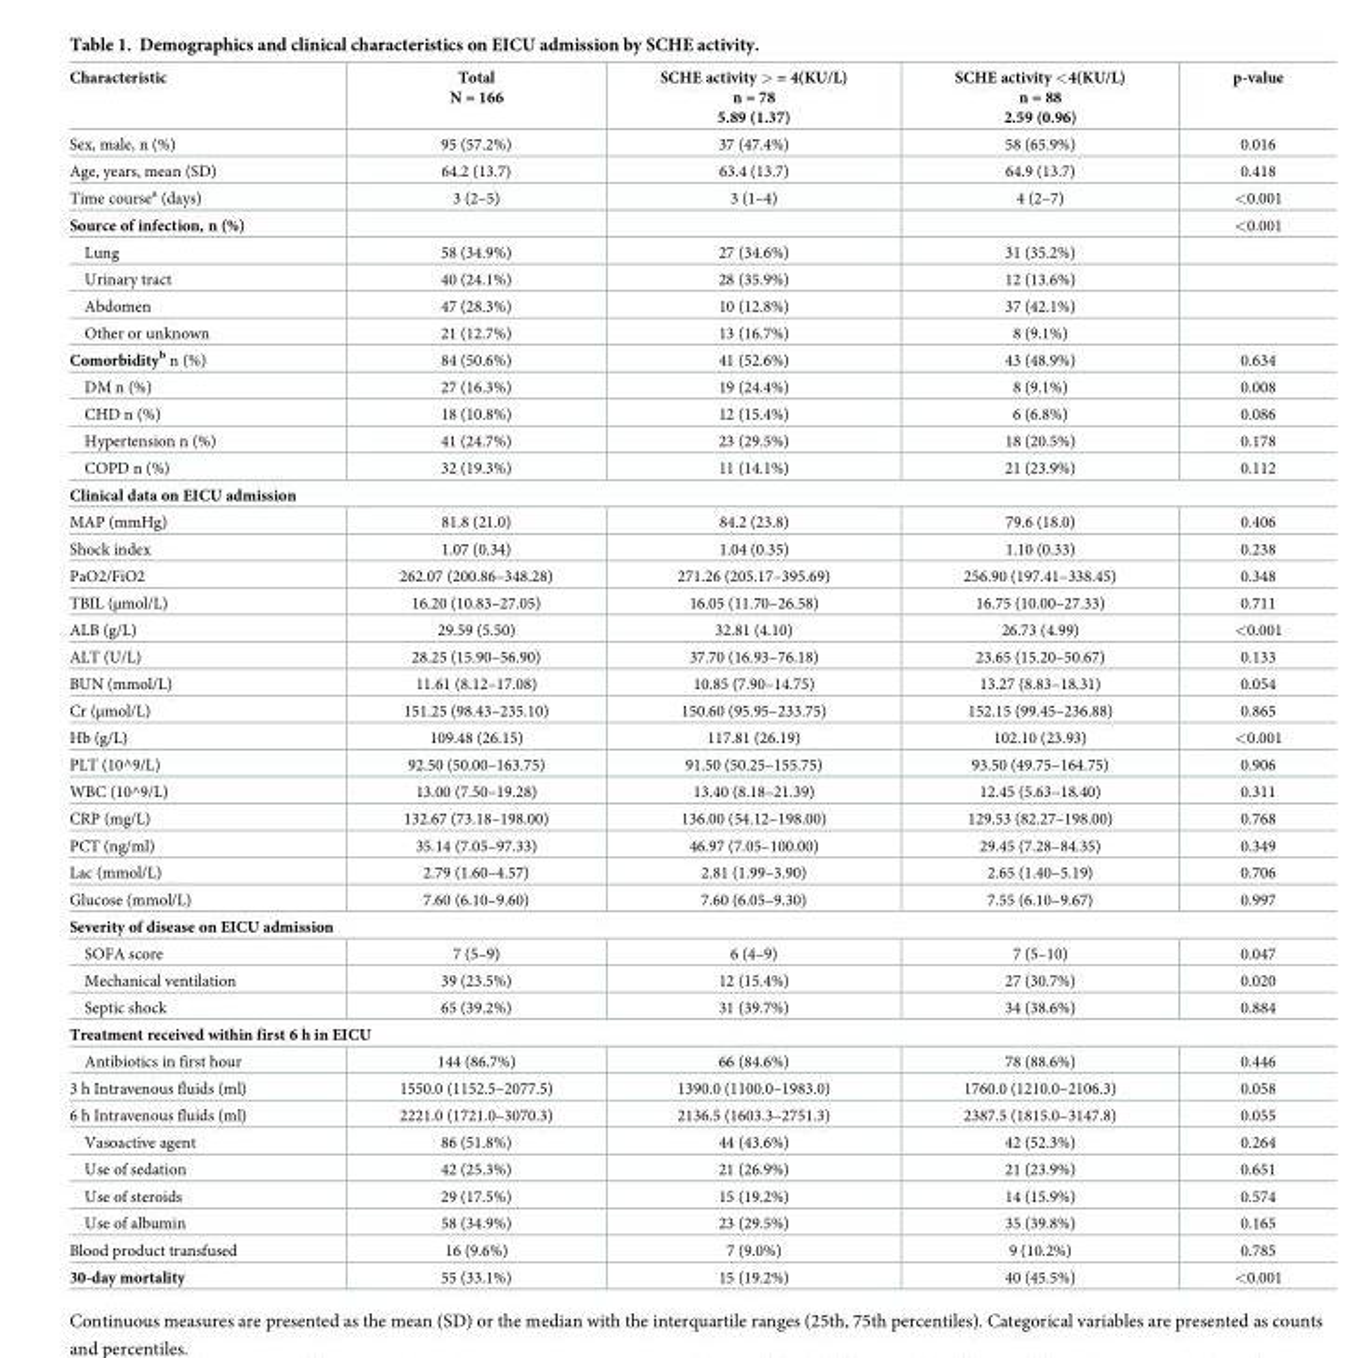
<table><thead><tr><td>Characteristic</td><td>Total N = 166</td><td>SCHE activity &gt; = 4(KU/L) n = 78 5.89 (1.37)</td><td>SCHE activity &lt;4(KU/L) n = 88 2.59 (0.96)</td><td>p-value</td></tr></thead><tbody><tr><td>Sex, male, n (%)</td><td>95 (57.2%)</td><td>37 (47.4%)</td><td>58 (65.9%)</td><td>0.016</td></tr><tr><td>Age, years, mean (SD)</td><td>64.2 (13.7)</td><td>63.4 (13.7)</td><td>64.9 (13.7)</td><td>0.418</td></tr><tr><td>Time course<sup>a</sup> (days)</td><td>3 (2–5)</td><td>3 (1–4)</td><td>4 (2–7)</td><td>&lt;0.001</td></tr><tr><td>Source of infection, n (%)</td><td></td><td></td><td></td><td>&lt;0.001</td></tr><tr><td>Lung</td><td>58 (34.9%)</td><td>27 (34.6%)</td><td>31 (35.2%)</td><td></td></tr><tr><td>Urinary tract</td><td>40 (24.1%)</td><td>28 (35.9%)</td><td>12 (13.6%)</td><td></td></tr><tr><td>Abdomen</td><td>47 (28.3%)</td><td>10 (12.8%)</td><td>37 (42.1%)</td><td></td></tr><tr><td>Other or unknown</td><td>21 (12.7%)</td><td>13 (16.7%)</td><td>8 (9.1%)</td><td></td></tr><tr><td>Comorbidity<sup>b</sup> n (%)</td><td>84 (50.6%)</td><td>41 (52.6%)</td><td>43 (48.9%)</td><td>0.634</td></tr><tr><td>DM n (%)</td><td>27 (16.3%)</td><td>19 (24.4%)</td><td>8 (9.1%)</td><td>0.008</td></tr><tr><td>CHD n (%)</td><td>18 (10.8%)</td><td>12 (15.4%)</td><td>6 (6.8%)</td><td>0.086</td></tr><tr><td>Hypertension n (%)</td><td>41 (24.7%)</td><td>23 (29.5%)</td><td>18 (20.5%)</td><td>0.178</td></tr><tr><td>COPD n (%)</td><td>32 (19.3%)</td><td>11 (14.1%)</td><td>21 (23.9%)</td><td>0.112</td></tr><tr><td colspan="5">Clinical data on EICU admission</td></tr><tr><td>MAP (mmHg)</td><td>81.8 (21.0)</td><td>84.2 (23.8)</td><td>79.6 (18.0)</td><td>0.406</td></tr><tr><td>Shock index</td><td>1.07 (0.34)</td><td>1.04 (0.35)</td><td>1.10 (0.33)</td><td>0.238</td></tr><tr><td>PaO2/FiO2</td><td>262.07 (200.86–348.28)</td><td>271.26 (205.17–395.69)</td><td>256.90 (197.41–338.45)</td><td>0.348</td></tr><tr><td>TBIL (μmol/L)</td><td>16.20 (10.83–27.05)</td><td>16.05 (11.70–26.58)</td><td>16.75 (10.00–27.33)</td><td>0.711</td></tr><tr><td>ALB (g/L)</td><td>29.59 (5.50)</td><td>32.81 (4.10)</td><td>26.73 (4.99)</td><td>&lt;0.001</td></tr><tr><td>ALT (U/L)</td><td>28.25 (15.90–56.90)</td><td>37.70 (16.93–76.18)</td><td>23.65 (15.20–50.67)</td><td>0.133</td></tr><tr><td>BUN (mmol/L)</td><td>11.61 (8.12–17.08)</td><td>10.85 (7.90–14.75)</td><td>13.27 (8.83–18.31)</td><td>0.054</td></tr><tr><td>Cr (μmol/L)</td><td>151.25 (98.43–235.10)</td><td>150.60 (95.95–233.75)</td><td>152.15 (99.45–236.88)</td><td>0.865</td></tr><tr><td>Hb (g/L)</td><td>109.48 (26.15)</td><td>117.81 (26.19)</td><td>102.10 (23.93)</td><td>&lt;0.001</td></tr><tr><td>PLT (10^9/L)</td><td>92.50 (50.00–163.75)</td><td>91.50 (50.25–155.75)</td><td>93.50 (49.75–164.75)</td><td>0.906</td></tr><tr><td>WBC (10^9/L)</td><td>13.00 (7.50–19.28)</td><td>13.40 (8.18–21.39)</td><td>12.45 (5.63–18.40)</td><td>0.311</td></tr><tr><td>CRP (mg/L)</td><td>132.67 (73.18–198.00)</td><td>136.00 (54.12–198.00)</td><td>129.53 (82.27–198.00)</td><td>0.768</td></tr><tr><td>PCT (ng/ml)</td><td>35.14 (7.05–97.33)</td><td>46.97 (7.05–100.00)</td><td>29.45 (7.28–84.35)</td><td>0.349</td></tr><tr><td>Lac (mmol/L)</td><td>2.79 (1.60–4.57)</td><td>2.81 (1.99–3.90)</td><td>2.65 (1.40–5.19)</td><td>0.706</td></tr><tr><td>Glucose (mmol/L)</td><td>7.60 (6.10–9.60)</td><td>7.60 (6.05–9.30)</td><td>7.55 (6.10–9.67)</td><td>0.997</td></tr><tr><td colspan="5">Severity of disease on EICU admission</td></tr><tr><td>SOFA score</td><td>7 (5–9)</td><td>6 (4–9)</td><td>7 (5–10)</td><td>0.047</td></tr><tr><td>Mechanical ventilation</td><td>39 (23.5%)</td><td>12 (15.4%)</td><td>27 (30.7%)</td><td>0.020</td></tr><tr><td>Septic shock</td><td>65 (39.2%)</td><td>31 (39.7%)</td><td>34 (38.6%)</td><td>0.884</td></tr><tr><td colspan="5">Treatment received within first 6 h in EICU</td></tr><tr><td>Antibiotics in first hour</td><td>144 (86.7%)</td><td>66 (84.6%)</td><td>78 (88.6%)</td><td>0.446</td></tr><tr><td>3 h Intravenous fluids (ml)</td><td>1550.0 (1152.5–2077.5)</td><td>1390.0 (1100.0–1983.0)</td><td>1760.0 (1210.0–2106.3)</td><td>0.058</td></tr><tr><td>6 h Intravenous fluids (ml)</td><td>2221.0 (1721.0–3070.3)</td><td>2136.5 (1603.3–2751.3)</td><td>2387.5 (1815.0–3147.8)</td><td>0.055</td></tr><tr><td>Vasoactive agent</td><td>86 (51.8%)</td><td>44 (43.6%)</td><td>42 (52.3%)</td><td>0.264</td></tr><tr><td>Use of sedation</td><td>42 (25.3%)</td><td>21 (26.9%)</td><td>21 (23.9%)</td><td>0.651</td></tr><tr><td>Use of steroids</td><td>29 (17.5%)</td><td>15 (19.2%)</td><td>14 (15.9%)</td><td>0.574</td></tr><tr><td>Use of albumin</td><td>58 (34.9%)</td><td>23 (29.5%)</td><td>35 (39.8%)</td><td>0.165</td></tr><tr><td>Blood product transfused</td><td>16 (9.6%)</td><td>7 (9.0%)</td><td>9 (10.2%)</td><td>0.785</td></tr><tr><td>30-day mortality</td><td>55 (33.1%)</td><td>15 (19.2%)</td><td>40 (45.5%)</td><td>&lt;0.001</td></tr></tbody></table>